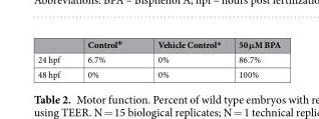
<table><thead><tr><td></td><td>Control<sup>Ψ</sup></td><td>Vehicle Control*</td><td>50 μM BPA</td></tr></thead><tbody><tr><td>24 hpf</td><td>6.7%</td><td>0%</td><td>86.7%</td></tr><tr><td>48 hpf</td><td>0%</td><td>0%</td><td>100%</td></tr></tbody></table>